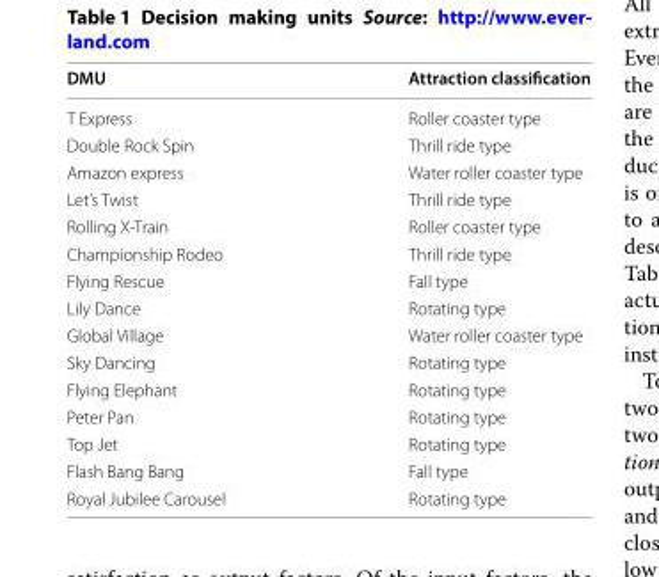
<table><thead><tr><td>DMU</td><td>Attraction classification</td></tr></thead><tbody><tr><td>T Express</td><td>Roller coaster type</td></tr><tr><td>Double Rock Spin</td><td>Thrill ride type</td></tr><tr><td>Amazon express</td><td>Water roller coaster type</td></tr><tr><td>Let’s Twist</td><td>Thrill ride type</td></tr><tr><td>Rolling X-Train</td><td>Roller coaster type</td></tr><tr><td>Championship Rodeo</td><td>Thrill ride type</td></tr><tr><td>Flying Rescue</td><td>Fall type</td></tr><tr><td>Lily Dance</td><td>Rotating type</td></tr><tr><td>Global Village</td><td>Water roller coaster type</td></tr><tr><td>Sky Dancing</td><td>Rotating type</td></tr><tr><td>Flying Elephant</td><td>Rotating type</td></tr><tr><td>Peter Pan</td><td>Rotating type</td></tr><tr><td>Top Jet</td><td>Rotating type</td></tr><tr><td>Flash Bang Bang</td><td>Fall type</td></tr><tr><td>Royal Jubilee Carousel</td><td>Rotating type</td></tr></tbody></table>